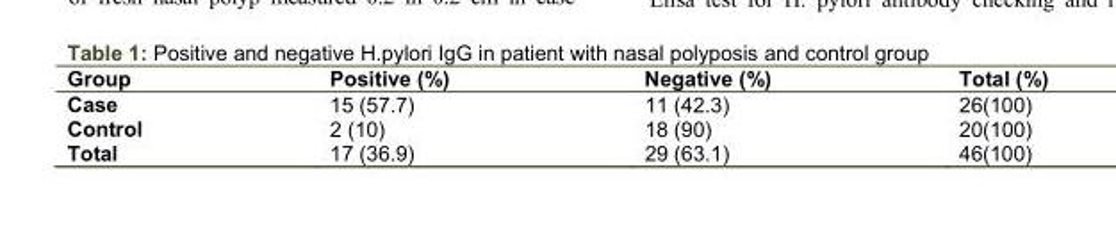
<table><thead><tr><td>Group</td><td>Positive (%)</td><td>Negative (%)</td><td>Total (%)</td></tr></thead><tbody><tr><td>Case</td><td>15 (57.7)</td><td>11 (42.3)</td><td>26(100)</td></tr><tr><td>Control</td><td>2 (10)</td><td>18 (90)</td><td>20(100)</td></tr><tr><td>Total</td><td>17 (36.9)</td><td>29 (63.1)</td><td>46(100)</td></tr></tbody></table>